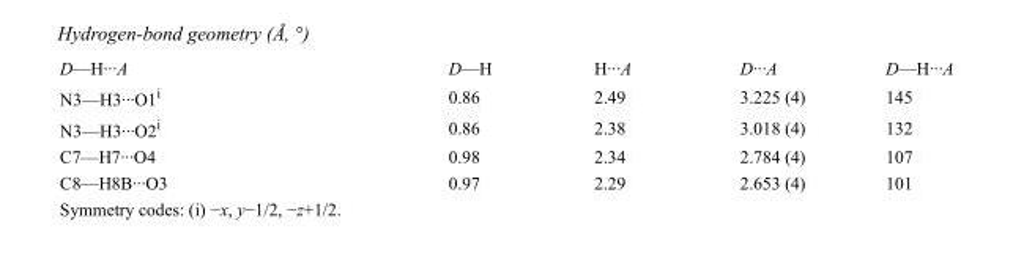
<table><tbody><tr><td>D—H···A</td><td>D—H</td><td>H···A</td><td>D···A</td><td>D—H···A</td></tr><tr><td>N3—H3···O1<sup>i</sup></td><td>0.86</td><td>2.49</td><td>3.225 (4)</td><td>145</td></tr><tr><td>N3—H3···O2<sup>i</sup></td><td>0.86</td><td>2.38</td><td>3.018 (4)</td><td>132</td></tr><tr><td>C7—H7···O4</td><td>0.98</td><td>2.34</td><td>2.784 (4)</td><td>107</td></tr><tr><td>C8—H8B···O3</td><td>0.97</td><td>2.29</td><td>2.653 (4)</td><td>101</td></tr></tbody></table>